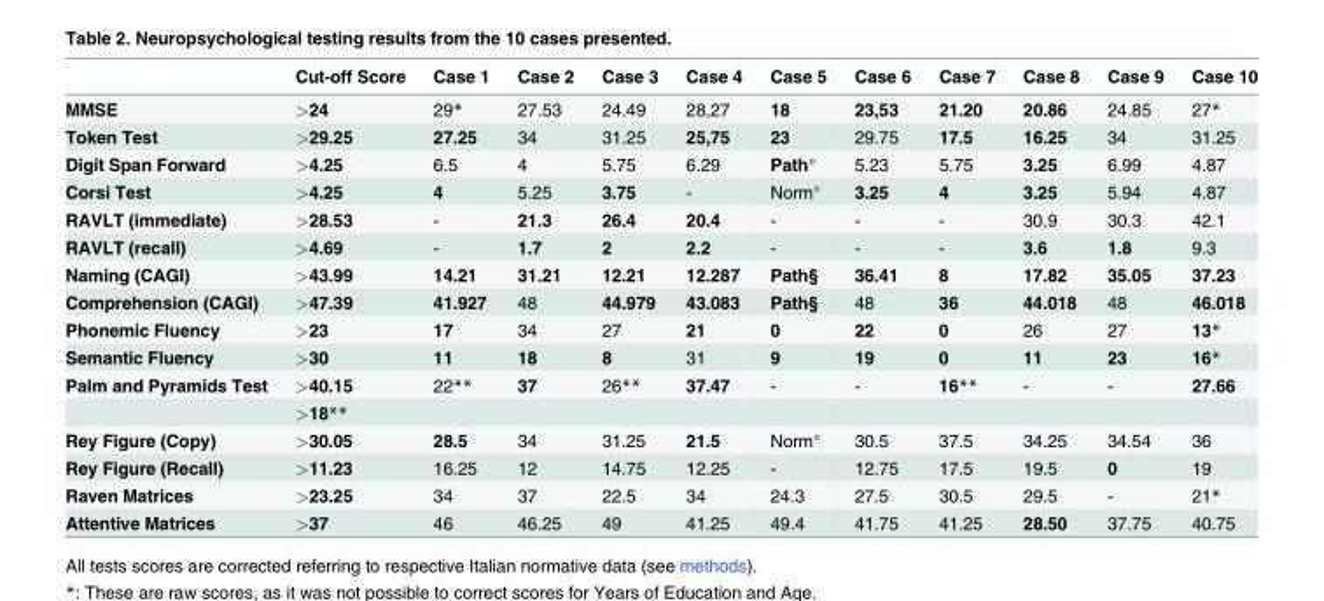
<table><thead><tr><td></td><td>Cut-off Score</td><td>Case 1</td><td>Case 2</td><td>Case 3</td><td>Case 4</td><td>Case 5</td><td>Case 6</td><td>Case 7</td><td>Case 8</td><td>Case 9</td><td>Case 10</td></tr></thead><tbody><tr><td>MMSE</td><td>&gt;24</td><td>29*</td><td>27.53</td><td>24.49</td><td>28,27</td><td>18</td><td>23,53</td><td>21.20</td><td>20.86</td><td>24.85</td><td>27*</td></tr><tr><td>Token Test</td><td>&gt;29.25</td><td>27.25</td><td>34</td><td>31.25</td><td>25,75</td><td>23</td><td>29.75</td><td>17.5</td><td>16.25</td><td>34</td><td>31.25</td></tr><tr><td>Digit Span Forward</td><td>&gt;4.25</td><td>6.5</td><td>4</td><td>5.75</td><td>6.29</td><td>Path°</td><td>5.23</td><td>5.75</td><td>3.25</td><td>6.99</td><td>4.87</td></tr><tr><td>Corsi Test</td><td>&gt;4.25</td><td>4</td><td>5.25</td><td>3.75</td><td>-</td><td>Norm°</td><td>3.25</td><td>4</td><td>3.25</td><td>5.94</td><td>4.87</td></tr><tr><td>RAVLT (immediate)</td><td>&gt;28.53</td><td>-</td><td>21.3</td><td>26.4</td><td>20.4</td><td>-</td><td>-</td><td>-</td><td>30.9</td><td>30.3</td><td>42.1</td></tr><tr><td>RAVLT (recall)</td><td>&gt;4.69</td><td>-</td><td>1.7</td><td>2</td><td>2.2</td><td>-</td><td>-</td><td>-</td><td>3.6</td><td>1.8</td><td>9.3</td></tr><tr><td>Naming (CAGI)</td><td>&gt;43.99</td><td>14.21</td><td>31.21</td><td>12.21</td><td>12.287</td><td>Path§</td><td>36.41</td><td>8</td><td>17.82</td><td>35.05</td><td>37.23</td></tr><tr><td>Comprehension (CAGI)</td><td>&gt;47.39</td><td>41.927</td><td>48</td><td>44.979</td><td>43.083</td><td>Path§</td><td>48</td><td>36</td><td>44.018</td><td>48</td><td>46.018</td></tr><tr><td>Phonemic Fluency</td><td>&gt;23</td><td>17</td><td>34</td><td>27</td><td>21</td><td>0</td><td>22</td><td>0</td><td>26</td><td>27</td><td>13*</td></tr><tr><td>Semantic Fluency</td><td>&gt;30</td><td>11</td><td>18</td><td>8</td><td>31</td><td>9</td><td>19</td><td>0</td><td>11</td><td>23</td><td>16*</td></tr><tr><td rowspan="2">Palm and Pyramids Test</td><td>&gt;40.15</td><td>22**</td><td>37</td><td>26**</td><td>37.47</td><td>-</td><td>-</td><td>16**</td><td>-</td><td>-</td><td>27.66</td></tr><tr><td>&gt;18**</td><td></td><td></td><td></td><td></td><td></td><td></td><td></td><td></td><td></td><td></td></tr><tr><td>Rey Figure (Copy)</td><td>&gt;30.05</td><td>28.5</td><td>34</td><td>31.25</td><td>21.5</td><td>Norm°</td><td>30.5</td><td>37.5</td><td>34.25</td><td>34.54</td><td>36</td></tr><tr><td>Rey Figure (Recall)</td><td>&gt;11.23</td><td>16.25</td><td>12</td><td>14.75</td><td>12.25</td><td>-</td><td>12.75</td><td>17.5</td><td>19.5</td><td>0</td><td>19</td></tr><tr><td>Raven Matrices</td><td>&gt;23.25</td><td>34</td><td>37</td><td>22.5</td><td>34</td><td>24.3</td><td>27.5</td><td>30.5</td><td>29.5</td><td>-</td><td>21*</td></tr><tr><td>Attentive Matrices</td><td>&gt;37</td><td>46</td><td>46.25</td><td>49</td><td>41.25</td><td>49.4</td><td>41.75</td><td>41.25</td><td>28.50</td><td>37.75</td><td>40.75</td></tr></tbody></table>